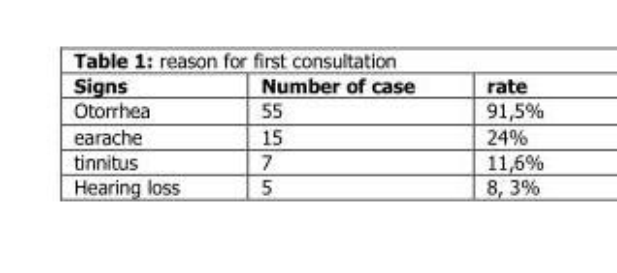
<table><thead><tr><td>Signs</td><td>Number of case</td><td>rate</td></tr></thead><tbody><tr><td>Otorrhea</td><td>55</td><td>91,5%</td></tr><tr><td>earache</td><td>15</td><td>24%</td></tr><tr><td>tinnitus</td><td>7</td><td>11,6%</td></tr><tr><td>Hearing loss</td><td>5</td><td>8, 3%</td></tr></tbody></table>